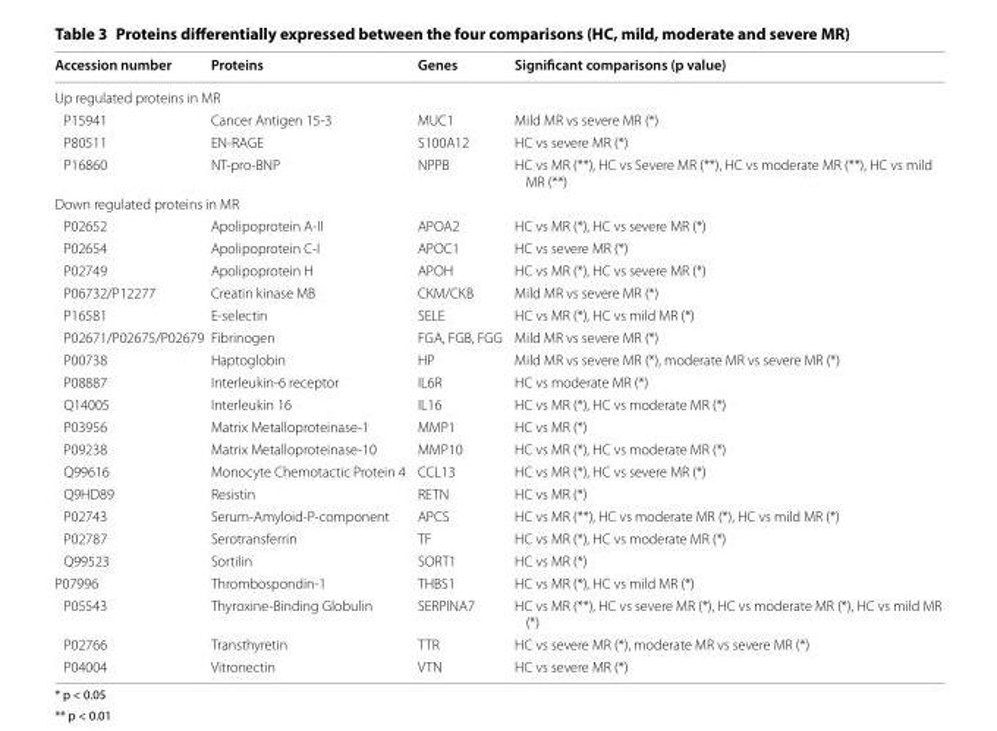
<table><thead><tr><td>Accession number</td><td>Proteins</td><td>Genes</td><td>Significant comparisons (p value)</td></tr></thead><tbody><tr><td colspan="4">Up regulated proteins in MR</td></tr><tr><td>P15941</td><td>Cancer Antigen 15‑3</td><td>MUC1</td><td>Mild MR vs severe MR (*)</td></tr><tr><td>P80511</td><td>EN‑RAGE</td><td>S100A12</td><td>HC vs severe MR (*)</td></tr><tr><td>P16860</td><td>NT‑pro‑BNP</td><td>NPPB</td><td>HC vs MR (**), HC vs Severe MR (**), HC vs moderate MR (**), HC vs mild MR (**)</td></tr><tr><td colspan="4">Down regulated proteins in MR</td></tr><tr><td>P02652</td><td>Apolipoprotein A‑II</td><td>APOA2</td><td>HC vs MR (*), HC vs severe MR (*)</td></tr><tr><td>P02654</td><td>Apolipoprotein C‑I</td><td>APOC1</td><td>HC vs severe MR (*)</td></tr><tr><td>P02749</td><td>Apolipoprotein H</td><td>APOH</td><td>HC vs MR (*), HC vs severe MR (*)</td></tr><tr><td>P06732/P12277</td><td>Creatin kinase MB</td><td>CKM/CKB</td><td>Mild MR vs severe MR (*)</td></tr><tr><td>P16581</td><td>E‑selectin</td><td>SELE</td><td>HC vs MR (*), HC vs mild MR (*)</td></tr><tr><td>P02671/P02675/P02679</td><td>Fibrinogen</td><td>FGA, FGB, FGG</td><td>Mild MR vs severe MR (*)</td></tr><tr><td>P00738</td><td>Haptoglobin</td><td>HP</td><td>Mild MR vs severe MR (*), moderate MR vs severe MR (*)</td></tr><tr><td>P08887</td><td>Interleukin‑6 receptor</td><td>IL6R</td><td>HC vs moderate MR (*)</td></tr><tr><td>Q14005</td><td>Interleukin 16</td><td>IL16</td><td>HC vs MR (*), HC vs moderate MR (*)</td></tr><tr><td>P03956</td><td>Matrix Metalloproteinase‑1</td><td>MMP1</td><td>HC vs MR (*)</td></tr><tr><td>P09238</td><td>Matrix Metalloproteinase‑10</td><td>MMP10</td><td>HC vs MR (*), HC vs moderate MR (*)</td></tr><tr><td>Q99616</td><td>Monocyte Chemotactic Protein 4</td><td>CCL13</td><td>HC vs MR (*), HC vs severe MR (*)</td></tr><tr><td>Q9HD89</td><td>Resistin</td><td>RETN</td><td>HC vs MR (*)</td></tr><tr><td>P02743</td><td>Serum‑Amyloid‑P‑component</td><td>APCS</td><td>HC vs MR (**), HC vs moderate MR (*), HC vs mild MR (*)</td></tr><tr><td>P02787</td><td>Serotransferrin</td><td>TF</td><td>HC vs MR (*), HC vs moderate MR (*)</td></tr><tr><td>Q99523</td><td>Sortilin</td><td>SORT1</td><td>HC vs MR (*)</td></tr><tr><td>P07996</td><td>Thrombospondin‑1</td><td>THBS1</td><td>HC vs MR (*), HC vs mild MR (*)</td></tr><tr><td>P05543</td><td>Thyroxine‑Binding Globulin</td><td>SERPINA7</td><td>HC vs MR (**), HC vs severe MR (*), HC vs moderate MR (*), HC vs mild MR (*)</td></tr><tr><td>P02766</td><td>Transthyretin</td><td>TTR</td><td>HC vs severe MR (*), moderate MR vs severe MR (*)</td></tr><tr><td>P04004</td><td>Vitronectin</td><td>VTN</td><td>HC vs severe MR (*)</td></tr></tbody></table>